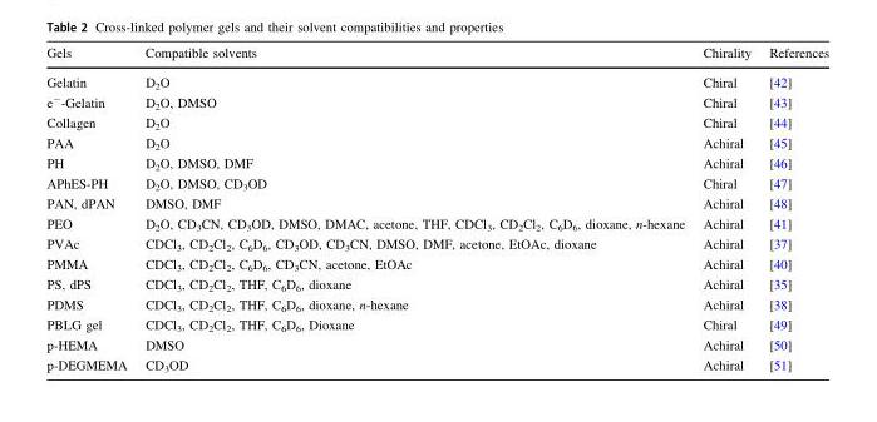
<table><thead><tr><td>Gels</td><td>Compatible solvents</td><td>Chirality</td><td>References</td></tr></thead><tbody><tr><td>Gelatin</td><td>D<sub>2</sub>O</td><td>Chiral</td><td>[42]</td></tr><tr><td>e<sup>-</sup>-Gelatin</td><td>D<sub>2</sub>O, DMSO</td><td>Chiral</td><td>[43]</td></tr><tr><td>Collagen</td><td>D<sub>2</sub>O</td><td>Chiral</td><td>[44]</td></tr><tr><td>PAA</td><td>D<sub>2</sub>O</td><td>Achiral</td><td>[45]</td></tr><tr><td>PH</td><td>D<sub>2</sub>O, DMSO, DMF</td><td>Achiral</td><td>[46]</td></tr><tr><td>APhES-PH</td><td>D<sub>2</sub>O, DMSO, CD<sub>3</sub>OD</td><td>Chiral</td><td>[47]</td></tr><tr><td>PAN, dPAN</td><td>DMSO, DMF</td><td>Achiral</td><td>[48]</td></tr><tr><td>PEO</td><td>D<sub>2</sub>O, CD<sub>3</sub>CN, CD<sub>3</sub>OD, DMSO, DMAC, acetone, THF, CDCl<sub>3</sub>, CD<sub>2</sub>Cl<sub>2</sub>, C<sub>6</sub>D<sub>6</sub>, dioxane, n-hexane</td><td>Achiral</td><td>[41]</td></tr><tr><td>PVAc</td><td>CDCl<sub>3</sub>, CD<sub>2</sub>Cl<sub>2</sub>, C<sub>6</sub>D<sub>6</sub>, CD<sub>3</sub>OD, CD<sub>3</sub>CN, DMSO, DMF, acetone, EtOAc, dioxane</td><td>Achiral</td><td>[37]</td></tr><tr><td>PMMA</td><td>CDCl<sub>3</sub>, CD<sub>2</sub>Cl<sub>2</sub>, C<sub>6</sub>D<sub>6</sub>, CD<sub>3</sub>CN, acetone, EtOAc</td><td>Achiral</td><td>[40]</td></tr><tr><td>PS, dPS</td><td>CDCl<sub>3</sub>, CD<sub>2</sub>Cl<sub>2</sub>, THF, C<sub>6</sub>D<sub>6</sub>, dioxane</td><td>Achiral</td><td>[35]</td></tr><tr><td>PDMS</td><td>CDCl<sub>3</sub>, CD<sub>2</sub>Cl<sub>2</sub>, THF, C<sub>6</sub>D<sub>6</sub>, dioxane, n-hexane</td><td>Achiral</td><td>[38]</td></tr><tr><td>PBLG gel</td><td>CDCl<sub>3</sub>, CD<sub>2</sub>Cl<sub>2</sub>, THF, C<sub>6</sub>D<sub>6</sub>, Dioxane</td><td>Chiral</td><td>[49]</td></tr><tr><td>p-HEMA</td><td>DMSO</td><td>Achiral</td><td>[50]</td></tr><tr><td>p-DEGMEMA</td><td>CD<sub>3</sub>OD</td><td>Achiral</td><td>[51]</td></tr></tbody></table>